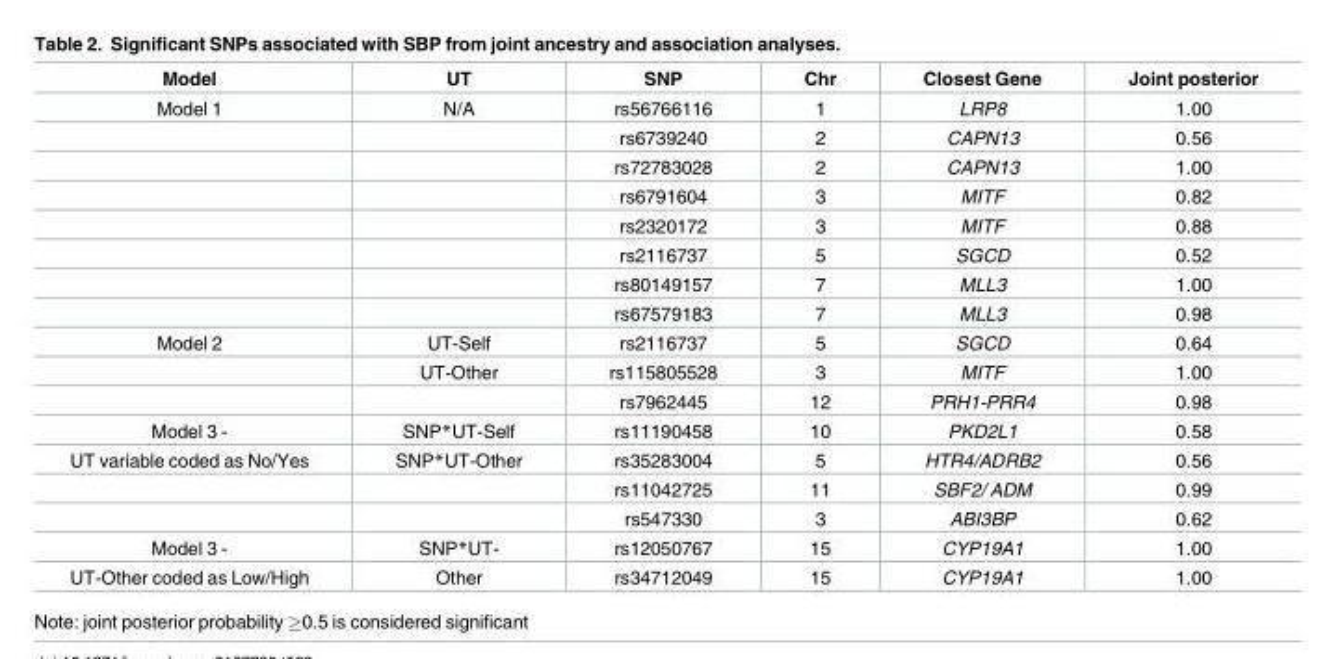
<table><thead><tr><td>Model</td><td>UT</td><td>SNP</td><td>Chr</td><td>Closest Gene</td><td>Joint posterior</td></tr></thead><tbody><tr><td rowspan="8">Model 1</td><td>N/A</td><td>rs56766116</td><td>1</td><td>LRP8</td><td>1.00</td></tr><tr><td></td><td>rs6739240</td><td>2</td><td>CAPN13</td><td>0.56</td></tr><tr><td></td><td>rs72783028</td><td>2</td><td>CAPN13</td><td>1.00</td></tr><tr><td></td><td>rs6791604</td><td>3</td><td>MITF</td><td>0.82</td></tr><tr><td></td><td>rs2320172</td><td>3</td><td>MITF</td><td>0.88</td></tr><tr><td></td><td>rs2116737</td><td>5</td><td>SGCD</td><td>0.52</td></tr><tr><td></td><td>rs80149157</td><td>7</td><td>MLL3</td><td>1.00</td></tr><tr><td></td><td>rs67579183</td><td>7</td><td>MLL3</td><td>0.98</td></tr><tr><td rowspan="3">Model 2</td><td>UT-Self</td><td>rs2116737</td><td>5</td><td>SGCD</td><td>0.64</td></tr><tr><td>UT-Other</td><td>rs115805528</td><td>3</td><td>MITF</td><td>1.00</td></tr><tr><td></td><td>rs7962445</td><td>12</td><td>PRH1-PRR4</td><td>0.98</td></tr><tr><td>Model 3 -</td><td>SNP*UT-Self</td><td>rs11190458</td><td>10</td><td>PKD2L1</td><td>0.58</td></tr><tr><td rowspan="3">UT variable coded as No/Yes</td><td>SNP*UT-Other</td><td>rs35283004</td><td>5</td><td>HTR4/ADRB2</td><td>0.56</td></tr><tr><td></td><td>rs11042725</td><td>11</td><td>SBF2/ ADM</td><td>0.99</td></tr><tr><td></td><td>rs547330</td><td>3</td><td>ABI3BP</td><td>0.62</td></tr><tr><td>Model 3 -</td><td>SNP*UT-</td><td>rs12050767</td><td>15</td><td>CYP19A1</td><td>1.00</td></tr><tr><td>UT-Other coded as Low/High</td><td>Other</td><td>rs34712049</td><td>15</td><td>CYP19A1</td><td>1.00</td></tr></tbody></table>